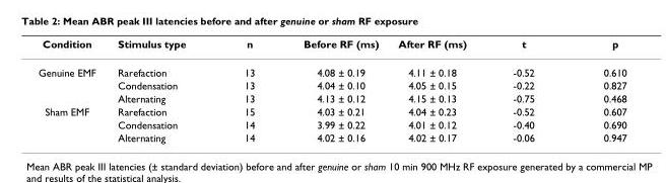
<table><thead><tr><td>Condition</td><td>Stimulus type</td><td>n</td><td>Before RF (ms)</td><td>After RF (ms)</td><td>t</td><td>p</td></tr></thead><tbody><tr><td rowspan="3">Genuine EMF</td><td>Rarefaction</td><td>13</td><td>4.08 ± 0.19</td><td>4.11 ± 0.18</td><td>-0.52</td><td>0.610</td></tr><tr><td>Condensation</td><td>13</td><td>4.04 ± 0.10</td><td>4.05 ± 0.15</td><td>-0.22</td><td>0.827</td></tr><tr><td>Alternating</td><td>13</td><td>4.13 ± 0.12</td><td>4.15 ± 0.13</td><td>-0.75</td><td>0.468</td></tr><tr><td rowspan="3">Sham EMF</td><td>Rarefaction</td><td>15</td><td>4.03 ± 0.21</td><td>4.04 ± 0.23</td><td>-0.52</td><td>0.607</td></tr><tr><td>Condensation</td><td>14</td><td>3.99 ± 0.22</td><td>4.01 ± 0.12</td><td>-0.40</td><td>0.690</td></tr><tr><td>Alternating</td><td>14</td><td>4.02 ± 0.16</td><td>4.02 ± 0.17</td><td>-0.06</td><td>0.947</td></tr></tbody></table>